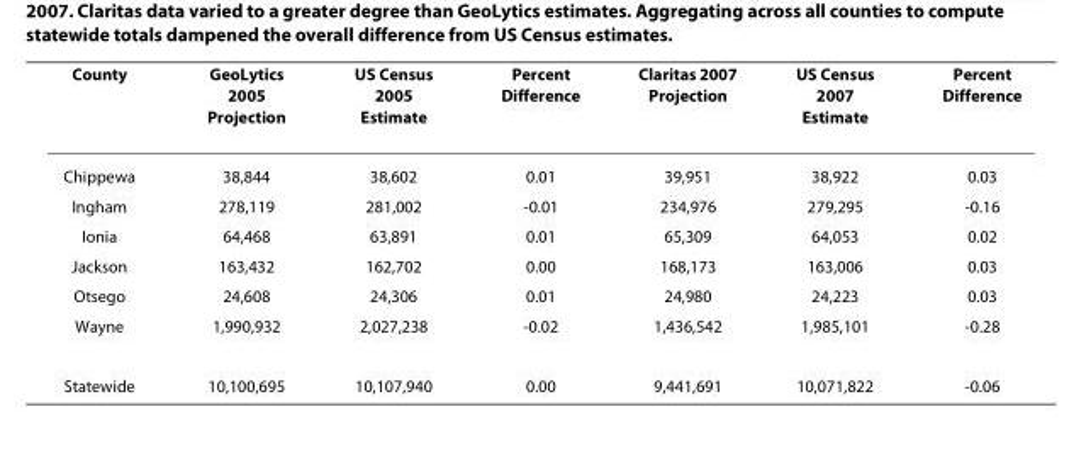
<table><thead><tr><td>County</td><td>GeoLytics 2005 Projection</td><td>US Census 2005 Estimate</td><td>Percent Difference</td><td>Claritas 2007 Projection</td><td>US Census 2007 Estimate</td><td>Percent Difference</td></tr></thead><tbody><tr><td>Chippewa</td><td>38,844</td><td>38,602</td><td>0.01</td><td>39,951</td><td>38,922</td><td>0.03</td></tr><tr><td>Ingham</td><td>278,119</td><td>281,002</td><td>-0.01</td><td>234,976</td><td>279,295</td><td>-0.16</td></tr><tr><td>Ionia</td><td>64,468</td><td>63,891</td><td>0.01</td><td>65,309</td><td>64,053</td><td>0.02</td></tr><tr><td>Jackson</td><td>163,432</td><td>162,702</td><td>0.00</td><td>168,173</td><td>163,006</td><td>0.03</td></tr><tr><td>Otsego</td><td>24,608</td><td>24,306</td><td>0.01</td><td>24,980</td><td>24,223</td><td>0.03</td></tr><tr><td>Wayne</td><td>1,990,932</td><td>2,027,238</td><td>-0.02</td><td>1,436,542</td><td>1,985,101</td><td>-0.28</td></tr><tr><td>Statewide</td><td>10,100,695</td><td>10,107,940</td><td>0.00</td><td>9,441,691</td><td>10,071,822</td><td>-0.06</td></tr></tbody></table>